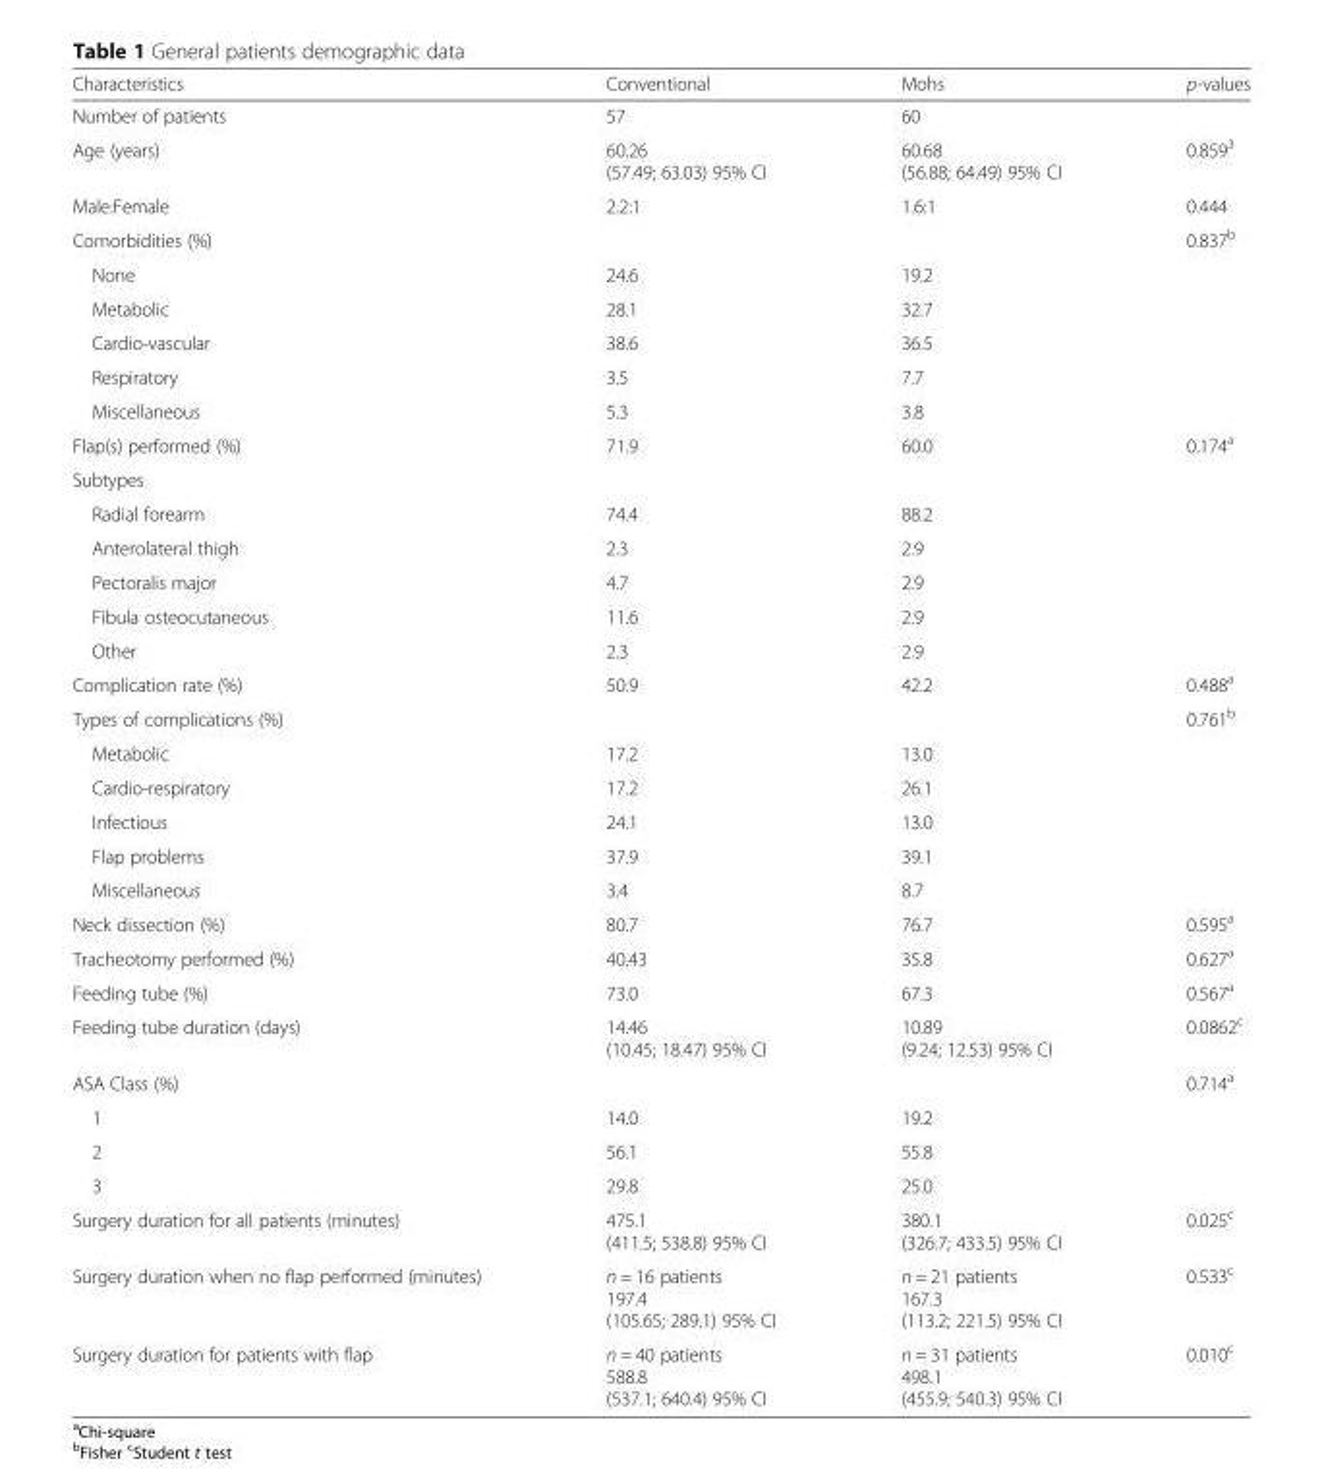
<table><thead><tr><td>Characteristics</td><td>Conventional</td><td>Mohs</td><td>p-values</td></tr></thead><tbody><tr><td>Number of patients</td><td>57</td><td>60</td><td></td></tr><tr><td>Age (years)</td><td>60.26 (57.49; 63.03) 95% CI</td><td>60.68 (56.88; 64.49) 95% CI</td><td>0.859<sup>3</sup></td></tr><tr><td>Male:Female</td><td>2.2:1</td><td>1.6:1</td><td>0.444</td></tr><tr><td colspan="3">Comorbidities (%)</td><td>0.837<sup>b</sup></td></tr><tr><td>None</td><td>24.6</td><td>19.2</td><td></td></tr><tr><td>Metabolic</td><td>28.1</td><td>32.7</td><td></td></tr><tr><td>Cardio-vascular</td><td>38.6</td><td>36.5</td><td></td></tr><tr><td>Respiratory</td><td>3.5</td><td>7.7</td><td></td></tr><tr><td>Miscellaneous</td><td>5.3</td><td>3.8</td><td></td></tr><tr><td>Flap(s) performed (%)</td><td>71.9</td><td>60.0</td><td>0.174<sup>a</sup></td></tr><tr><td colspan="4">Subtypes</td></tr><tr><td>Radial forearm</td><td>74.4</td><td>88.2</td><td></td></tr><tr><td>Anterolateral thigh</td><td>2.3</td><td>2.9</td><td></td></tr><tr><td>Pectoralis major</td><td>4.7</td><td>2.9</td><td></td></tr><tr><td>Fibula osteocutaneous</td><td>11.6</td><td>2.9</td><td></td></tr><tr><td>Other</td><td>2.3</td><td>2.9</td><td></td></tr><tr><td>Complication rate (%)</td><td>50.9</td><td>42.2</td><td>0.488<sup>a</sup></td></tr><tr><td colspan="3">Types of complications (%)</td><td>0.761<sup>b</sup></td></tr><tr><td>Metabolic</td><td>17.2</td><td>13.0</td><td></td></tr><tr><td>Cardio-respiratory</td><td>17.2</td><td>26.1</td><td></td></tr><tr><td>Infectious</td><td>24.1</td><td>13.0</td><td></td></tr><tr><td>Flap problems</td><td>37.9</td><td>39.1</td><td></td></tr><tr><td>Miscellaneous</td><td>3.4</td><td>8.7</td><td></td></tr><tr><td>Neck dissection (%)</td><td>80.7</td><td>76.7</td><td>0.595<sup>a</sup></td></tr><tr><td>Tracheotomy performed (%)</td><td>40.43</td><td>35.8</td><td>0.627<sup>a</sup></td></tr><tr><td>Feeding tube (%)</td><td>73.0</td><td>67.3</td><td>0.567<sup>a</sup></td></tr><tr><td>Feeding tube duration (days)</td><td>14.46 (10.45; 18.47) 95% CI</td><td>10.89 (9.24; 12.53) 95% CI</td><td>0.0862<sup>c</sup></td></tr><tr><td colspan="3">ASA Class (%)</td><td>0.714<sup>a</sup></td></tr><tr><td>1</td><td>14.0</td><td>19.2</td><td></td></tr><tr><td>2</td><td>56.1</td><td>55.8</td><td></td></tr><tr><td>3</td><td>29.8</td><td>25.0</td><td></td></tr><tr><td>Surgery duration for all patients (minutes)</td><td>475.1 (411.5; 538.8) 95% CI</td><td>380.1 (326.7; 433.5) 95% CI</td><td>0.025<sup>c</sup></td></tr><tr><td>Surgery duration when no flap performed (minutes)</td><td>n = 16 patients 197.4 (105.65; 289.1) 95% CI</td><td>n = 21 patients 167.3 (113.2; 221.5) 95% CI</td><td>0.533<sup>c</sup></td></tr><tr><td>Surgery duration for patients with flap</td><td>n = 40 patients 588.8 (537.1; 640.4) 95% CI</td><td>n = 31 patients 498.1 (455.9; 540.3) 95% CI</td><td>0.010<sup>c</sup></td></tr></tbody></table>